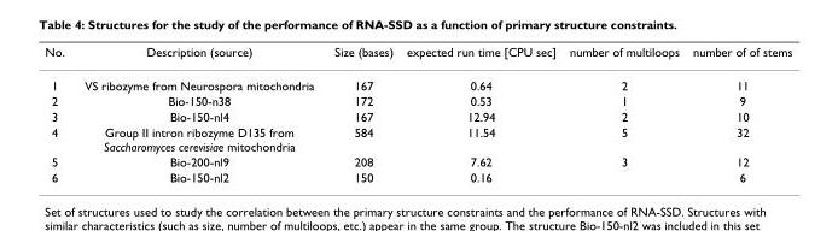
<table><thead><tr><td>No.</td><td>Description (source)</td><td>Size (bases)</td><td>expected run time [CPU sec]</td><td>number of multiloops</td><td>number of of stems</td></tr></thead><tbody><tr><td>1</td><td>VS ribozyme from Neurospora mitochondria</td><td>167</td><td>0.64</td><td>2</td><td>11</td></tr><tr><td>2</td><td>Bio-150-n38</td><td>172</td><td>0.53</td><td>1</td><td>9</td></tr><tr><td>3</td><td>Bio-150-nl4</td><td>167</td><td>12.94</td><td>2</td><td>10</td></tr><tr><td>4</td><td>Group II intron ribozyme D135 from Saccharomyces cerevisiae mitochondria</td><td>584</td><td>11.54</td><td>5</td><td>32</td></tr><tr><td>5</td><td>Bio-200-nl9</td><td>208</td><td>7.62</td><td>3</td><td>12</td></tr><tr><td>6</td><td>Bio-150-nl2</td><td>150</td><td>0.16</td><td></td><td>6</td></tr></tbody></table>